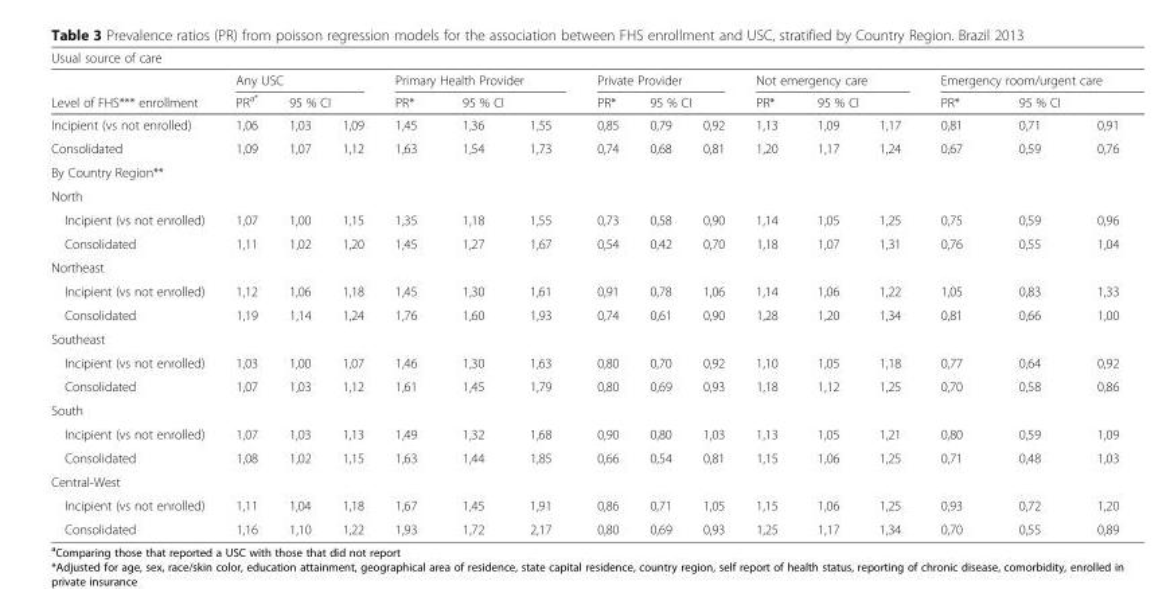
<table><thead><tr><td colspan="16">Usual source of care</td></tr><tr><td rowspan="3">Level of FHS*** enrollment Incipient (vs not enrolled)</td><td colspan="3">Any USC</td><td colspan="3">Primary Health Provider</td><td colspan="3">Private Provider</td><td colspan="3">Not emergency care</td><td colspan="3">Emergency room/urgent care</td></tr><tr><td rowspan="2">PR<sup>a*</sup> 1,06</td><td colspan="2">95 % CI</td><td rowspan="2">PR* 1,45</td><td colspan="2">95 % CI</td><td rowspan="2">PR* 0,85</td><td colspan="2">95 % CI</td><td rowspan="2">PR* 1,13</td><td colspan="2">95 % CI</td><td rowspan="2">PR* 0,81</td><td colspan="2">95 % CI</td></tr><tr><td>1,03</td><td>1,09</td><td>1,36</td><td>1,55</td><td>0,79</td><td>0,92</td><td>1,09</td><td>1,17</td><td>0,71</td><td>0,91</td></tr></thead><tbody><tr><td>Consolidated</td><td>1,09</td><td>1,07</td><td>1,12</td><td>1,63</td><td>1,54</td><td>1,73</td><td>0,74</td><td>0,68</td><td>0,81</td><td>1,20</td><td>1,17</td><td>1,24</td><td>0,67</td><td>0,59</td><td>0,76</td></tr><tr><td colspan="16">By Country Region**</td></tr><tr><td colspan="16">North</td></tr><tr><td>Incipient (vs not enrolled)</td><td>1,07</td><td>1,00</td><td>1,15</td><td>1,35</td><td>1,18</td><td>1,55</td><td>0,73</td><td>0,58</td><td>0,90</td><td>1,14</td><td>1,05</td><td>1,25</td><td>0,75</td><td>0,59</td><td>0,96</td></tr><tr><td>Consolidated</td><td>1,11</td><td>1,02</td><td>1,20</td><td>1,45</td><td>1,27</td><td>1,67</td><td>0,54</td><td>0,42</td><td>0,70</td><td>1,18</td><td>1,07</td><td>1,31</td><td>0,76</td><td>0,55</td><td>1,04</td></tr><tr><td colspan="16">Northeast</td></tr><tr><td>Incipient (vs not enrolled)</td><td>1,12</td><td>1,06</td><td>1,18</td><td>1,45</td><td>1,30</td><td>1,61</td><td>0,91</td><td>0,78</td><td>1,06</td><td>1,14</td><td>1,06</td><td>1,22</td><td>1,05</td><td>0,83</td><td>1,33</td></tr><tr><td>Consolidated</td><td>1,19</td><td>1,14</td><td>1,24</td><td>1,76</td><td>1,60</td><td>1,93</td><td>0,74</td><td>0,61</td><td>0,90</td><td>1,28</td><td>1,20</td><td>1,34</td><td>0,81</td><td>0,66</td><td>1,00</td></tr><tr><td colspan="16">Southeast</td></tr><tr><td>Incipient (vs not enrolled)</td><td>1,03</td><td>1,00</td><td>1,07</td><td>1,46</td><td>1,30</td><td>1,63</td><td>0,80</td><td>0,70</td><td>0,92</td><td>1,10</td><td>1,05</td><td>1,18</td><td>0,77</td><td>0,64</td><td>0,92</td></tr><tr><td>Consolidated</td><td>1,07</td><td>1,03</td><td>1,12</td><td>1,61</td><td>1,45</td><td>1,79</td><td>0,80</td><td>0,69</td><td>0,93</td><td>1,18</td><td>1,12</td><td>1,25</td><td>0,70</td><td>0,58</td><td>0,86</td></tr><tr><td colspan="16">South</td></tr><tr><td>Incipient (vs not enrolled)</td><td>1,07</td><td>1,03</td><td>1,13</td><td>1,49</td><td>1,32</td><td>1,68</td><td>0,90</td><td>0,80</td><td>1,03</td><td>1,13</td><td>1,05</td><td>1,21</td><td>0,80</td><td>0,59</td><td>1,09</td></tr><tr><td>Consolidated</td><td>1,08</td><td>1,02</td><td>1,15</td><td>1,63</td><td>1,44</td><td>1,85</td><td>0,66</td><td>0,54</td><td>0,81</td><td>1,15</td><td>1,06</td><td>1,25</td><td>0,71</td><td>0,48</td><td>1,03</td></tr><tr><td colspan="16">Central-West</td></tr><tr><td>Incipient (vs not enrolled)</td><td>1,11</td><td>1,04</td><td>1,18</td><td>1,67</td><td>1,45</td><td>1,91</td><td>0,86</td><td>0,71</td><td>1,05</td><td>1,15</td><td>1,06</td><td>1,25</td><td>0,93</td><td>0,72</td><td>1,20</td></tr><tr><td>Consolidated</td><td>1,16</td><td>1,10</td><td>1,22</td><td>1,93</td><td>1,72</td><td>2,17</td><td>0,80</td><td>0,69</td><td>0,93</td><td>1,25</td><td>1,17</td><td>1,34</td><td>0,70</td><td>0,55</td><td>0,89</td></tr></tbody></table>